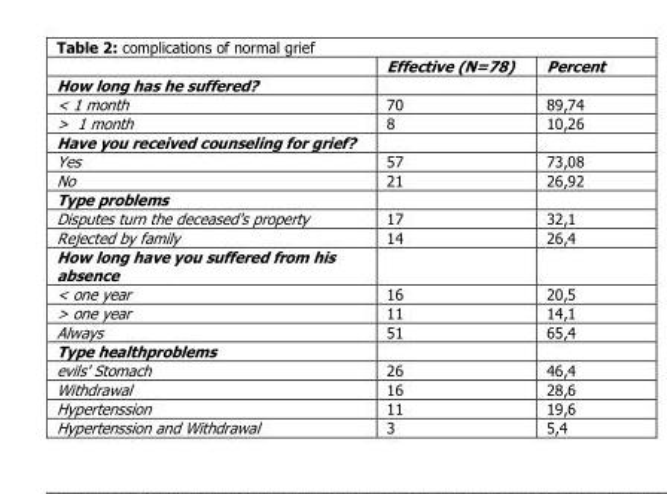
<table><thead><tr><td></td><td>Effective (N=78)</td><td>Percent</td></tr></thead><tbody><tr><td colspan="3">How long has he suffered?</td></tr><tr><td>&lt; 1 month</td><td>70</td><td>89,74</td></tr><tr><td>&gt; 1 month</td><td>8</td><td>10,26</td></tr><tr><td colspan="3">Have you received counseling for grief?</td></tr><tr><td>Yes</td><td>57</td><td>73,08</td></tr><tr><td>No</td><td>21</td><td>26,92</td></tr><tr><td colspan="3">Type problems</td></tr><tr><td>Disputes turn the deceased&#x27;s property</td><td>17</td><td>32,1</td></tr><tr><td>Rejected by family</td><td>14</td><td>26,4</td></tr><tr><td colspan="3">How long have you suffered from his absence</td></tr><tr><td>&lt; one year</td><td>16</td><td>20,5</td></tr><tr><td>&gt; one year</td><td>11</td><td>14,1</td></tr><tr><td>Always</td><td>51</td><td>65,4</td></tr><tr><td colspan="3">Type healthproblems</td></tr><tr><td>evils&#x27; Stomach</td><td>26</td><td>46,4</td></tr><tr><td>Withdrawal</td><td>16</td><td>28,6</td></tr><tr><td>Hypertenssion</td><td>11</td><td>19,6</td></tr><tr><td>Hypertenssion and Withdrawal</td><td>3</td><td>5,4</td></tr></tbody></table>